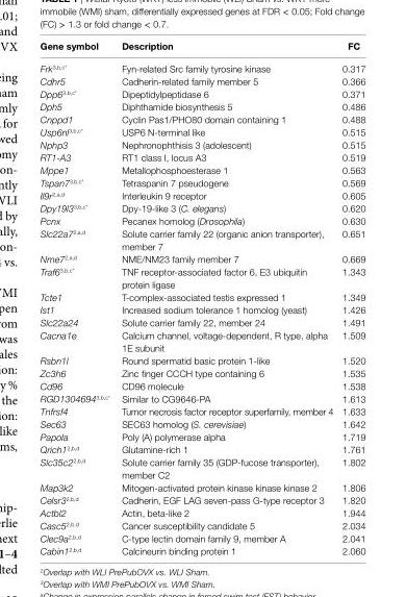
<table><thead><tr><td>gene symbol</td><td>Description</td><td>Fc</td></tr></thead><tbody><tr><td>Frk<sup>3,b,c*</sup></td><td>Fyn-related Src family tyrosine kinase</td><td>0.317</td></tr><tr><td>Cdhr5</td><td>Cadherin-related family member 5</td><td>0.366</td></tr><tr><td>Dpp6<sup>3,b,c*</sup></td><td>Dipeptidylpeptidase 6</td><td>0.371</td></tr><tr><td>Dph5</td><td>Diphthamide biosynthesis 5</td><td>0.486</td></tr><tr><td>Cnppd1</td><td>Cyclin Pas1/PHO80 domain containing 1</td><td>0.488</td></tr><tr><td>Usp6nl<sup>3,b,c*</sup></td><td>USP6 N-terminal like</td><td>0.515</td></tr><tr><td>Nphp3</td><td>Nephronophthisis 3 (adolescent)</td><td>0.515</td></tr><tr><td>RT1-A3</td><td>RT1 class I, locus A3</td><td>0.519</td></tr><tr><td>Mppe1</td><td>Metallophosphoesterase 1</td><td>0.563</td></tr><tr><td>Tspan7<sup>3,b,c*</sup></td><td>Tetraspanin 7 pseudogene</td><td>0.569</td></tr><tr><td>Il9r<sup>2,a,d</sup></td><td>Interleukin 9 receptor</td><td>0.605</td></tr><tr><td>Dpy19l3<sup>3,b,c*</sup></td><td>Dpy-19-like 3 (C. elegans)</td><td>0.620</td></tr><tr><td>Pcnx</td><td>Pecanex homolog (Drosophila)</td><td>0.630</td></tr><tr><td>Slc22a7<sup>2,a,d</sup></td><td>Solute carrier family 22 (organic anion transporter), member 7</td><td>0.651</td></tr><tr><td>Nme7<sup>2,a,d</sup></td><td>NME/NM23 family member 7</td><td>0.669</td></tr><tr><td>Traf6<sup>3,b,c*</sup></td><td>TNF receptor-associated factor 6, E3 ubiquitin protein ligase</td><td>1.343</td></tr><tr><td>Tcte1</td><td>T-complex-associated testis expressed 1</td><td>1.349</td></tr><tr><td>Ist1</td><td>Increased sodium tolerance 1 homolog (yeast)</td><td>1.426</td></tr><tr><td>Slc22a24</td><td>Solute carrier family 22, member 24</td><td>1.491</td></tr><tr><td>Cacna1e</td><td>Calcium channel, voltage-dependent, R type, alpha 1E subunit</td><td>1.509</td></tr><tr><td>Rsbn1l</td><td>Round spermatid basic protein 1-like</td><td>1.520</td></tr><tr><td>Zc3h6</td><td>Zinc finger CCCH type containing 6</td><td>1.535</td></tr><tr><td>Cd96</td><td>CD96 molecule</td><td>1.538</td></tr><tr><td>RGD1304694<sup>3,b,c*</sup></td><td>Similar to CG9646-PA</td><td>1.613</td></tr><tr><td>Tnfrsf4</td><td>Tumor necrosis factor receptor superfamily, member 4</td><td>1.633</td></tr><tr><td>Sec63</td><td>SEC63 homolog (S. cerevisiae)</td><td>1.642</td></tr><tr><td>Papola</td><td>Poly (A) polymerase alpha</td><td>1.719</td></tr><tr><td>Qrich1<sup>2,b,d</sup></td><td>Glutamine-rich 1</td><td>1.761</td></tr><tr><td>Slc35c2<sup>2,b,d</sup></td><td>Solute carrier family 35 (GDP-fucose transporter), member C2</td><td>1.802</td></tr><tr><td>Map3k2</td><td>Mitogen-activated protein kinase kinase kinase 2</td><td>1.806</td></tr><tr><td>Celsr3<sup>2,b,d</sup></td><td>Cadherin, EGF LAG seven-pass G-type receptor 3</td><td>1.820</td></tr><tr><td>Actbl2</td><td>Actin, beta-like 2</td><td>1.944</td></tr><tr><td>Casc5<sup>2,b,d</sup></td><td>Cancer susceptibility candidate 5</td><td>2.034</td></tr><tr><td>Clec9a<sup>2,b,d</sup></td><td>C-type lectin domain family 9, member A</td><td>2.041</td></tr><tr><td>Cabin1<sup>2,b,d</sup></td><td>Calcineurin binding protein 1</td><td>2.060</td></tr></tbody></table>